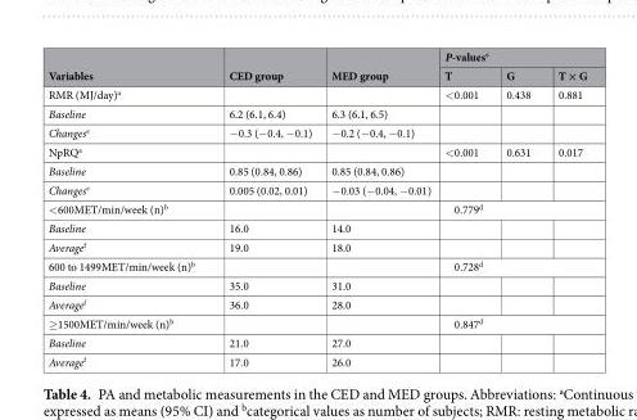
<table><thead><tr><td rowspan="2">Variables</td><td rowspan="2">CED group</td><td rowspan="2">MED group</td><td colspan="3">P-values<sup>c</sup></td></tr><tr><td>T</td><td>G</td><td>T × G</td></tr></thead><tbody><tr><td>RMR (MJ/day)<sup>a</sup></td><td></td><td></td><td>&lt;0.001</td><td>0.438</td><td>0.881</td></tr><tr><td>Baseline</td><td>6.2 (6.1, 6.4)</td><td>6.3 (6.1, 6.5)</td><td></td><td></td><td></td></tr><tr><td>Changes<sup>e</sup></td><td>−0.3 (−0.4, −0.1)</td><td>−0.2 (−0.4, −0.1)</td><td></td><td></td><td></td></tr><tr><td>NpRQ<sup>a</sup></td><td></td><td></td><td>&lt;0.001</td><td>0.631</td><td>0.017</td></tr><tr><td>Baseline</td><td>0.85 (0.84, 0.86)</td><td>0.85 (0.84, 0.86)</td><td></td><td></td><td></td></tr><tr><td>Changes<sup>e</sup></td><td>0.005 (0.02, 0.01)</td><td>−0.03 (−0.04, −0.01)</td><td></td><td></td><td></td></tr><tr><td>&lt;600MET/min/week (n)<sup>b</sup></td><td></td><td></td><td colspan="3">0.779<sup>d</sup></td></tr><tr><td>Baseline</td><td>16.0</td><td>14.0</td><td></td><td></td><td></td></tr><tr><td>Average<sup>f</sup></td><td>19.0</td><td>18.0</td><td></td><td></td><td></td></tr><tr><td>600 to 1499MET/min/week (n)<sup>b</sup></td><td></td><td></td><td colspan="3">0.728<sup>d</sup></td></tr><tr><td>Baseline</td><td>35.0</td><td>31.0</td><td></td><td></td><td></td></tr><tr><td>Average<sup>f</sup></td><td>36.0</td><td>28.0</td><td></td><td></td><td></td></tr><tr><td>≥1500MET/min/week (n)<sup>b</sup></td><td></td><td></td><td colspan="3">0.847<sup>d</sup></td></tr><tr><td>Baseline</td><td>21.0</td><td>27.0</td><td></td><td></td><td></td></tr><tr><td>Average<sup>f</sup></td><td>17.0</td><td>26.0</td><td></td><td></td><td></td></tr></tbody></table>